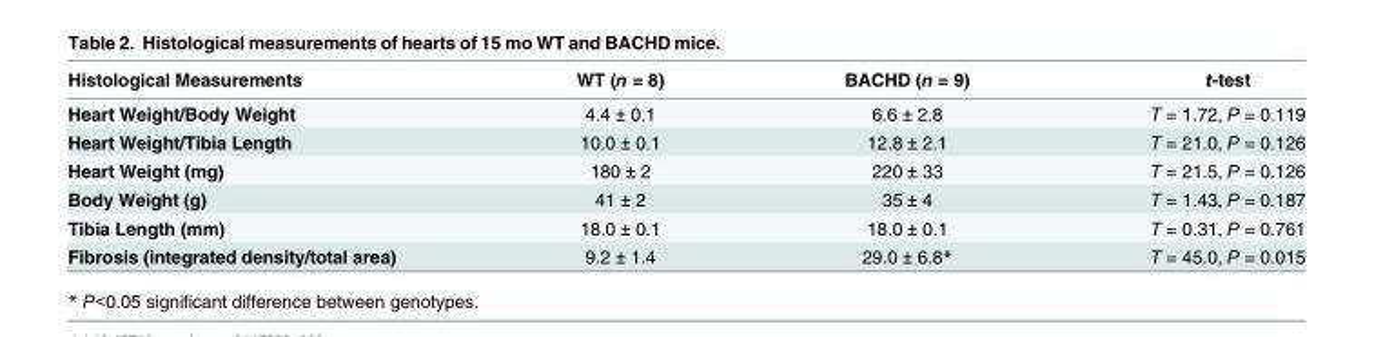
<table><thead><tr><td>Histological Measurements</td><td>WT (n = 8)</td><td>BACHD (n = 9)</td><td>t-test</td></tr></thead><tbody><tr><td>Heart Weight/Body Weight</td><td>4.4 ± 0.1</td><td>6.6 ± 2.8</td><td>T = 1.72, P = 0.119</td></tr><tr><td>Heart Weight/Tibia Length</td><td>10.0 ± 0.1</td><td>12.8 ± 2.1</td><td>T = 21.0, P = 0.126</td></tr><tr><td>Heart Weight (mg)</td><td>180 ± 2</td><td>220 ± 33</td><td>T = 21.5, P = 0.126</td></tr><tr><td>Body Weight (g)</td><td>41 ± 2</td><td>35 ± 4</td><td>T = 1.43, P = 0.187</td></tr><tr><td>Tibia Length (mm)</td><td>18.0 ± 0.1</td><td>18.0 ± 0.1</td><td>T = 0.31, P = 0.761</td></tr><tr><td>Fibrosis (integrated density/total area)</td><td>9.2 ± 1.4</td><td>29.0 ± 6.8*</td><td>T = 45.0, P = 0.015</td></tr></tbody></table>